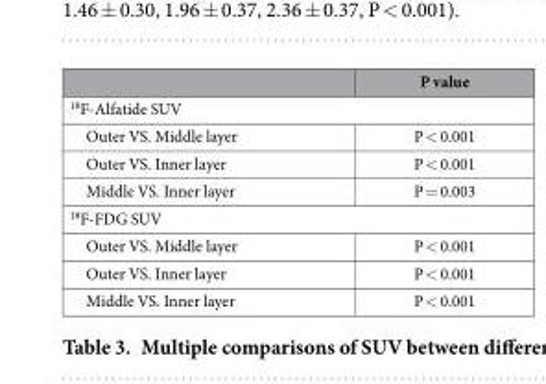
<table><thead><tr><td></td><td>P value</td></tr></thead><tbody><tr><td colspan="2"><sup>18</sup>F-Alfatide SUV</td></tr><tr><td>Outer VS. Middle layer</td><td>P &lt; 0.001</td></tr><tr><td>Outer VS. Inner layer</td><td>P &lt; 0.001</td></tr><tr><td>Middle VS. Inner layer</td><td>P = 0.003</td></tr><tr><td colspan="2"><sup>18</sup>F-FDG SUV</td></tr><tr><td>Outer VS. Middle layer</td><td>P &lt; 0.001</td></tr><tr><td>Outer VS. Inner layer</td><td>P &lt; 0.001</td></tr><tr><td>Middle VS. Inner layer</td><td>P &lt; 0.001</td></tr></tbody></table>